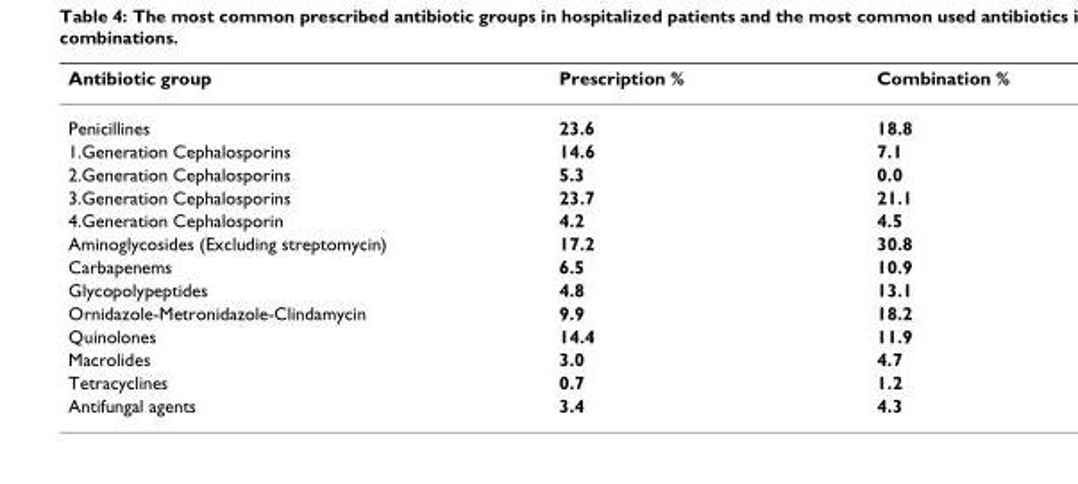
<table><thead><tr><td>Antibiotic group</td><td>Prescription %</td><td>Combination %</td></tr></thead><tbody><tr><td>Penicillines</td><td>23.6</td><td>18.8</td></tr><tr><td>1.Generation Cephalosporins</td><td>14.6</td><td>7.1</td></tr><tr><td>2.Generation Cephalosporins</td><td>5.3</td><td>0.0</td></tr><tr><td>3.Generation Cephalosporins</td><td>23.7</td><td>21.1</td></tr><tr><td>4.Generation Cephalosporin</td><td>4.2</td><td>4.5</td></tr><tr><td>Aminoglycosides (Excluding streptomycin)</td><td>17.2</td><td>30.8</td></tr><tr><td>Carbapenems</td><td>6.5</td><td>10.9</td></tr><tr><td>Glycopolypeptides</td><td>4.8</td><td>13.1</td></tr><tr><td>Ornidazole-Metronidazole-Clindamycin</td><td>9.9</td><td>18.2</td></tr><tr><td>Quinolones</td><td>14.4</td><td>11.9</td></tr><tr><td>Macrolides</td><td>3.0</td><td>4.7</td></tr><tr><td>Tetracyclines</td><td>0.7</td><td>1.2</td></tr><tr><td>Antifungal agents</td><td>3.4</td><td>4.3</td></tr></tbody></table>